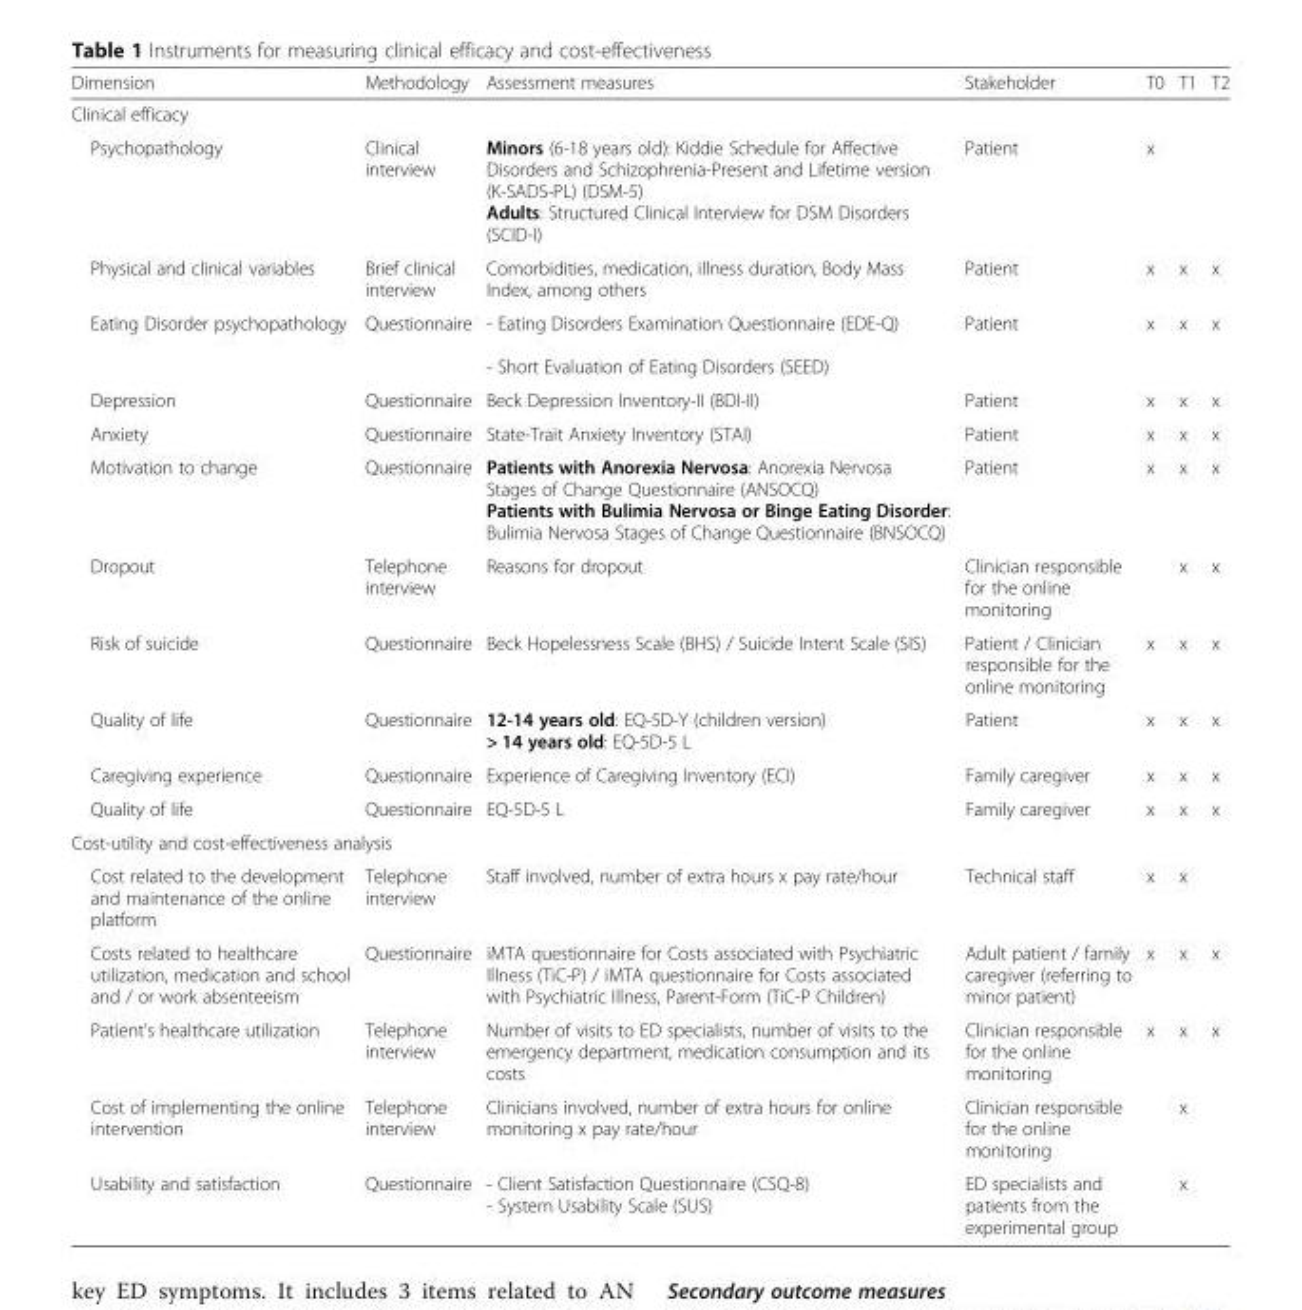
<table><thead><tr><td>Dimension</td><td>Methodology</td><td>Assessment measures</td><td>Stakeholder</td><td>T0</td><td>T1</td><td>T2</td></tr></thead><tbody><tr><td colspan="7">Clinical efficacy</td></tr><tr><td>Psychopathology</td><td>Clinical interview</td><td>Minors (6-18 years old): Kiddie Schedule for Affective Disorders and Schizophrenia-Present and Lifetime version (K-SADS-PL) (DSM-5) Adults: Structured Clinical Interview for DSM Disorders (SCID-I)</td><td>Patient</td><td>x</td><td></td><td></td></tr><tr><td>Physical and clinical variables</td><td>Brief clinical interview</td><td>Comorbidities, medication, illness duration, Body Mass Index, among others</td><td>Patient</td><td>x</td><td>x</td><td>x</td></tr><tr><td>Eating Disorder psychopathology</td><td>Questionnaire</td><td>- Eating Disorders Examination Questionnaire (EDE-Q) - Short Evaluation of Eating Disorders (SEED)</td><td>Patient</td><td>x</td><td>x</td><td>x</td></tr><tr><td>Depression</td><td>Questionnaire</td><td>Beck Depression Inventory-II (BDI-II)</td><td>Patient</td><td>x</td><td>x</td><td>x</td></tr><tr><td>Anxiety</td><td>Questionnaire</td><td>State-Trait Anxiety Inventory (STAI)</td><td>Patient</td><td>x</td><td>x</td><td>x</td></tr><tr><td>Motivation to change</td><td>Questionnaire</td><td>Patients with Anorexia Nervosa: Anorexia Nervosa Stages of Change Questionnaire (ANSOCQ) Patients with Bulimia Nervosa or Binge Eating Disorder: Bulimia Nervosa Stages of Change Questionnaire (BNSOCQ)</td><td>Patient</td><td>x</td><td>x</td><td>x</td></tr><tr><td>Dropout</td><td>Telephone interview</td><td>Reasons for dropout</td><td>Clinician responsible for the online monitoring</td><td></td><td>x</td><td>x</td></tr><tr><td>Risk of suicide</td><td>Questionnaire</td><td>Beck Hopelessness Scale (BHS) / Suicide Intent Scale (SIS)</td><td>Patient / Clinician responsible for the online monitoring</td><td>x</td><td>x</td><td>x</td></tr><tr><td>Quality of life</td><td>Questionnaire</td><td>12-14 years old: EQ-5D-Y (children version) &gt; 14 years old: EQ-5D-5 L</td><td>Patient</td><td>x</td><td>x</td><td>x</td></tr><tr><td>Caregiving experience</td><td>Questionnaire</td><td>Experience of Caregiving Inventory (ECI)</td><td>Family caregiver</td><td>x</td><td>x</td><td>x</td></tr><tr><td>Quality of life</td><td>Questionnaire</td><td>EQ-5D-5 L</td><td>Family caregiver</td><td>x</td><td>x</td><td>x</td></tr><tr><td colspan="7">Cost-utility and cost-effectiveness analysis</td></tr><tr><td>Cost related to the development and maintenance of the online platform</td><td>Telephone interview</td><td>Staff involved, number of extra hours x pay rate/hour</td><td>Technical staff</td><td>x</td><td>x</td><td></td></tr><tr><td>Costs related to healthcare utilization, medication and school and / or work absenteeism</td><td>Questionnaire</td><td>iMTA questionnaire for Costs associated with Psychiatric Illness (TiC-P) / iMTA questionnaire for Costs associated with Psychiatric Illness, Parent-Form (TiC-P Children)</td><td>Adult patient / family caregiver (referring to minor patient)</td><td>x</td><td>x</td><td>x</td></tr><tr><td>Patient’s healthcare utilization</td><td>Telephone interview</td><td>Number of visits to ED specialists, number of visits to the emergency department, medication consumption and its costs</td><td>Clinician responsible for the online monitoring</td><td>x</td><td>x</td><td>x</td></tr><tr><td>Cost of implementing the online intervention</td><td>Telephone interview</td><td>Clinicians involved, number of extra hours for online monitoring x pay rate/hour</td><td>Clinician responsible for the online monitoring</td><td></td><td>x</td><td></td></tr><tr><td>Usability and satisfaction</td><td>Questionnaire</td><td>- Client Satisfaction Questionnaire (CSQ-8) - System Usability Scale (SUS)</td><td>ED specialists and patients from the experimental group</td><td></td><td>x</td><td></td></tr></tbody></table>